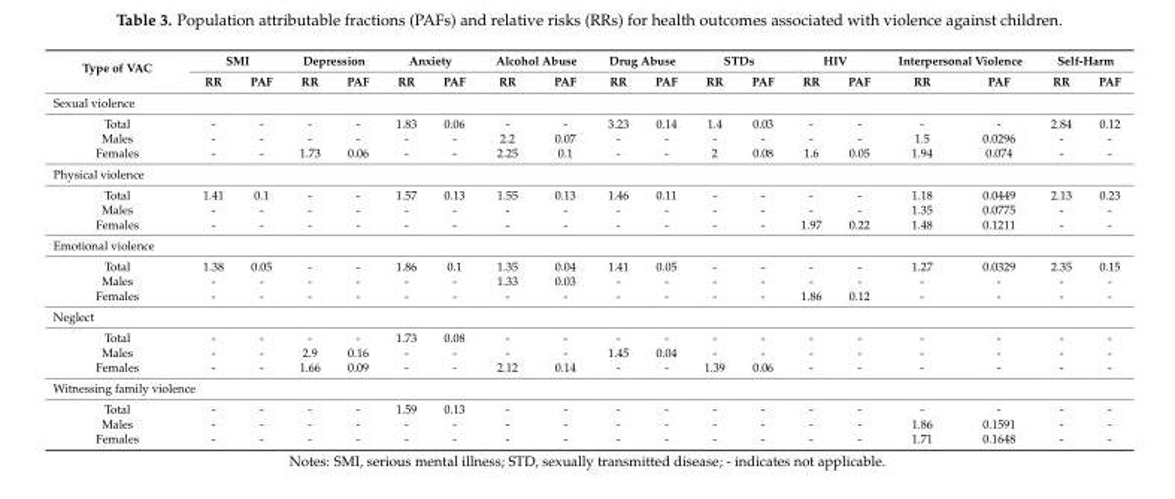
<table><thead><tr><td rowspan="2">Type of VAC</td><td colspan="2">SMI</td><td colspan="2">Depression</td><td colspan="2">Anxiety</td><td colspan="2">Alcohol Abuse</td><td colspan="2">Drug Abuse</td><td colspan="2">STDs</td><td colspan="2">HIV</td><td colspan="2">Interpersonal Violence</td><td colspan="2">Self-Harm</td></tr><tr><td>RR</td><td>PAF</td><td>RR</td><td>PAF</td><td>RR</td><td>PAF</td><td>RR</td><td>PAF</td><td>RR</td><td>PAF</td><td>RR</td><td>PAF</td><td>RR</td><td>PAF</td><td>RR</td><td>PAF</td><td>RR</td><td>PAF</td></tr></thead><tbody><tr><td colspan="19">Sexual violence</td></tr><tr><td>Total</td><td>-</td><td>-</td><td>-</td><td>-</td><td>1.83</td><td>0.06</td><td>-</td><td>-</td><td>3.23</td><td>0.14</td><td>1.4</td><td>0.03</td><td>-</td><td>-</td><td>-</td><td>-</td><td>2.84</td><td>0.12</td></tr><tr><td>Males</td><td>-</td><td>-</td><td>-</td><td>-</td><td>-</td><td>-</td><td>2.2</td><td>0.07</td><td>-</td><td>-</td><td>-</td><td>-</td><td>-</td><td>-</td><td>1.5</td><td>0.0296</td><td>-</td><td>-</td></tr><tr><td>Females</td><td>-</td><td>-</td><td>1.73</td><td>0.06</td><td>-</td><td>-</td><td>2.25</td><td>0.1</td><td>-</td><td>-</td><td>2</td><td>0.08</td><td>1.6</td><td>0.05</td><td>1.94</td><td>0.074</td><td>-</td><td>-</td></tr><tr><td colspan="19">Physical violence</td></tr><tr><td>Total</td><td>1.41</td><td>0.1</td><td>-</td><td>-</td><td>1.57</td><td>0.13</td><td>1.55</td><td>0.13</td><td>1.46</td><td>0.11</td><td>-</td><td>-</td><td>-</td><td>-</td><td>1.18</td><td>0.0449</td><td>2.13</td><td>0.23</td></tr><tr><td>Males</td><td>-</td><td>-</td><td>-</td><td>-</td><td>-</td><td>-</td><td>-</td><td>-</td><td>-</td><td>-</td><td>-</td><td>-</td><td>-</td><td>-</td><td>1.35</td><td>0.0775</td><td>-</td><td>-</td></tr><tr><td>Females</td><td>-</td><td>-</td><td>-</td><td>-</td><td>-</td><td>-</td><td>-</td><td>-</td><td>-</td><td>-</td><td>-</td><td>-</td><td>1.97</td><td>0.22</td><td>1.48</td><td>0.1211</td><td>-</td><td>-</td></tr><tr><td colspan="19">Emotional violence</td></tr><tr><td>Total</td><td>1.38</td><td>0.05</td><td>-</td><td>-</td><td>1.86</td><td>0.1</td><td>1.35</td><td>0.04</td><td>1.41</td><td>0.05</td><td>-</td><td>-</td><td>-</td><td>-</td><td>1.27</td><td>0.0329</td><td>2.35</td><td>0.15</td></tr><tr><td>Males</td><td>-</td><td>-</td><td>-</td><td>-</td><td>-</td><td>-</td><td>1.33</td><td>0.03</td><td>-</td><td>-</td><td>-</td><td>-</td><td>-</td><td>-</td><td>-</td><td>-</td><td>-</td><td>-</td></tr><tr><td>Females</td><td>-</td><td>-</td><td>-</td><td>-</td><td>-</td><td>-</td><td>-</td><td>-</td><td>-</td><td>-</td><td>-</td><td>-</td><td>1.86</td><td>0.12</td><td>-</td><td>-</td><td>-</td><td>-</td></tr><tr><td colspan="19">Neglect</td></tr><tr><td>Total</td><td>-</td><td>-</td><td>-</td><td>-</td><td>1.73</td><td>0.08</td><td>-</td><td>-</td><td>-</td><td>-</td><td>-</td><td>-</td><td>-</td><td>-</td><td>-</td><td>-</td><td>-</td><td>-</td></tr><tr><td>Males</td><td>-</td><td>-</td><td>2.9</td><td>0.16</td><td>-</td><td>-</td><td>-</td><td>-</td><td>1.45</td><td>0.04</td><td>-</td><td>-</td><td>-</td><td>-</td><td>-</td><td>-</td><td>-</td><td>-</td></tr><tr><td>Females</td><td>-</td><td>-</td><td>1.66</td><td>0.09</td><td>-</td><td>-</td><td>2.12</td><td>0.14</td><td>-</td><td>-</td><td>1.39</td><td>0.06</td><td>-</td><td>-</td><td>-</td><td>-</td><td>-</td><td>-</td></tr><tr><td colspan="19">Witnessing family violence</td></tr><tr><td>Total</td><td>-</td><td>-</td><td>-</td><td>-</td><td>1.59</td><td>0.13</td><td>-</td><td>-</td><td>-</td><td>-</td><td>-</td><td>-</td><td>-</td><td>-</td><td>-</td><td>-</td><td>-</td><td>-</td></tr><tr><td>Males</td><td>-</td><td>-</td><td>-</td><td>-</td><td>-</td><td>-</td><td>-</td><td>-</td><td>-</td><td>-</td><td>-</td><td>-</td><td>-</td><td>-</td><td>1.86</td><td>0.1591</td><td>-</td><td>-</td></tr><tr><td>Females</td><td>-</td><td>-</td><td>-</td><td>-</td><td>-</td><td>-</td><td>-</td><td>-</td><td>-</td><td>-</td><td>-</td><td>-</td><td>-</td><td>-</td><td>1.71</td><td>0.1648</td><td>-</td><td>-</td></tr></tbody></table>